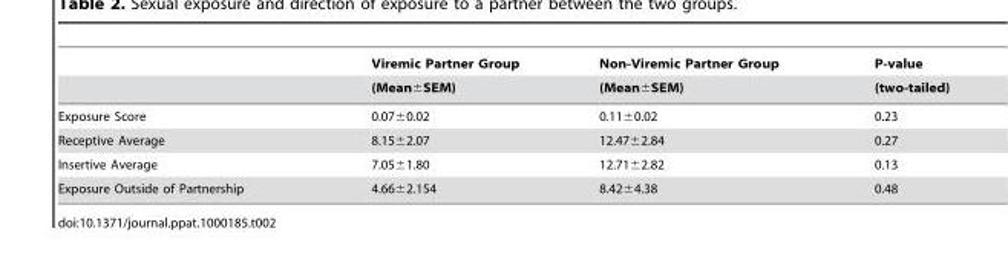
<table><thead><tr><td rowspan="2"></td><td rowspan="2">Viremic Partner Group (Mean±SEM)</td><td rowspan="2">Non-Viremic Partner Group (Mean±SEM)</td><td rowspan="2">P-value (two-tailed)</td></tr><tr></tr></thead><tbody><tr><td>Exposure Score</td><td>0.07±0.02</td><td>0.11±0.02</td><td>0.23</td></tr><tr><td>Receptive Average</td><td>8.15±2.07</td><td>12.47±2.84</td><td>0.27</td></tr><tr><td>Insertive Average</td><td>7.05±1.80</td><td>12.71±2.82</td><td>0.13</td></tr><tr><td>Exposure Outside of Partnership</td><td>4.66±2.154</td><td>8.42±4.38</td><td>0.48</td></tr></tbody></table>